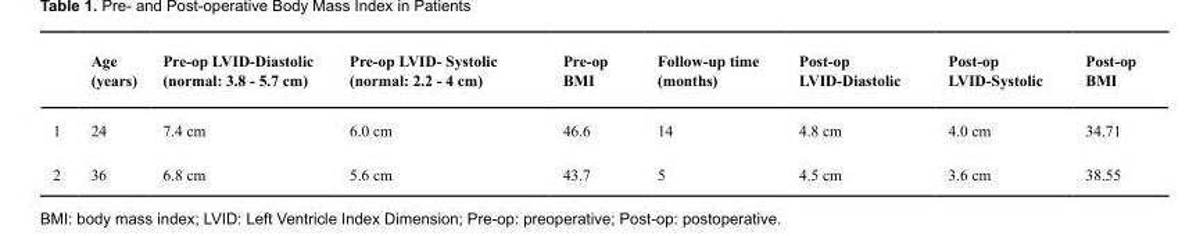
<table><thead><tr><td></td><td>Age (years)</td><td>Pre-op LVID-Diastolic (normal: 3.8 - 5.7 cm)</td><td>Pre-op LVID- Systolic (normal: 2.2 - 4 cm)</td><td>Pre-op BMI</td><td>Follow-up time (months)</td><td>Post-op LVID-Diastolic</td><td>Post-op LVID-Systolic</td><td>Post-op BMI</td></tr></thead><tbody><tr><td>1</td><td>24</td><td>7.4 cm</td><td>6.0 cm</td><td>46.6</td><td>14</td><td>4.8 cm</td><td>4.0 cm</td><td>34.71</td></tr><tr><td>2</td><td>36</td><td>6.8 cm</td><td>5.6 cm</td><td>43.7</td><td>5</td><td>4.5 cm</td><td>3.6 cm</td><td>38.55</td></tr></tbody></table>